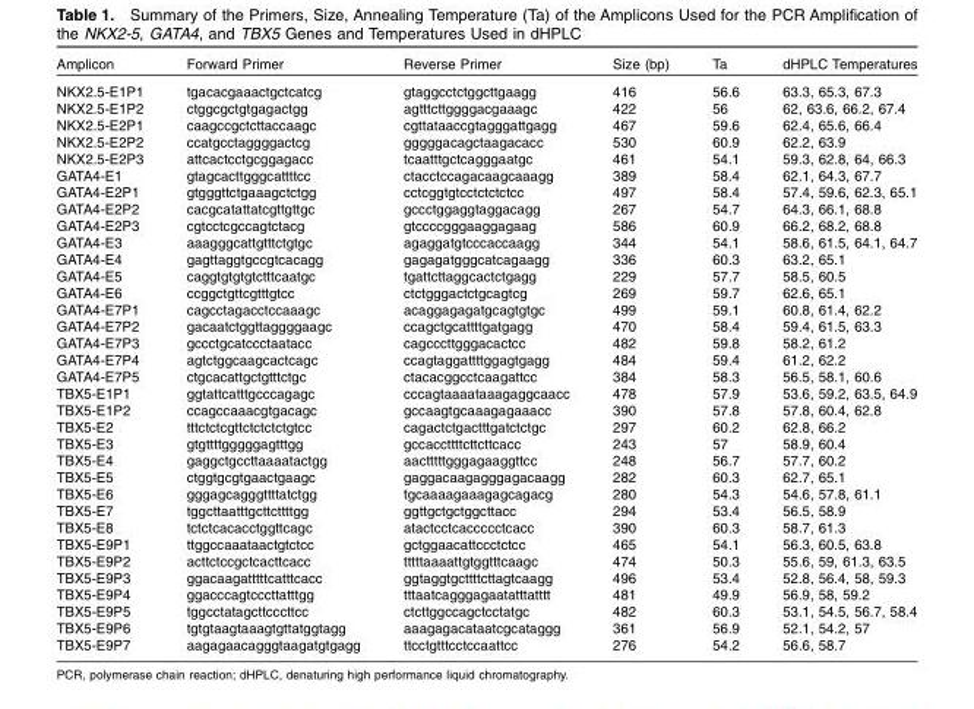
<table><thead><tr><td>Amplicon</td><td>Forward Primer</td><td>Reverse Primer</td><td>Size (bp)</td><td>Ta</td><td>dHPLC Temperatures</td></tr></thead><tbody><tr><td>NKX2.5-E1P1</td><td>tgacacgaaactgctcatcg</td><td>gtaggcctctggcttgaagg</td><td>416</td><td>56.6</td><td>63.3, 65.3, 67.3</td></tr><tr><td>NKX2.5-E1P2</td><td>ctggcgctgtgagactgg</td><td>agtttcttggggacgaaagc</td><td>422</td><td>56</td><td>62, 63.6, 66.2, 67.4</td></tr><tr><td>NKX2.5-E2P1</td><td>caagccgctcttaccaagc</td><td>cgttataaccgtagggattgagg</td><td>467</td><td>59.6</td><td>62.4, 65.6, 66.4</td></tr><tr><td>NKX2.5-E2P2</td><td>ccatgcctaggggactcg</td><td>gggggacagctaagacacc</td><td>530</td><td>60.9</td><td>62.2, 63.9</td></tr><tr><td>NKX2.5-E2P3</td><td>attcactcctgcggagacc</td><td>tcaatttgctcagggaatgc</td><td>461</td><td>54.1</td><td>59.3, 62.8, 64, 66.3</td></tr><tr><td>GATA4-E1</td><td>gtagcacttgggcattttcc</td><td>ctacctccagacaagcaaagg</td><td>389</td><td>58.4</td><td>62.1, 64.3, 67.7</td></tr><tr><td>GATA4-E2P1</td><td>gtgggttctgaaagctctgg</td><td>cctcggtgtcctctctctcc</td><td>497</td><td>58.4</td><td>57.4, 59.6, 62.3, 65.1</td></tr><tr><td>GATA4-E2P2</td><td>cacgcatattatcgttgttgc</td><td>gccctggaggtaggacagg</td><td>267</td><td>54.7</td><td>64.3, 66.1, 68.8</td></tr><tr><td>GATA4-E2P3</td><td>cgtcctcgccagtctacg</td><td>gtccccgggaaggagaag</td><td>586</td><td>60.9</td><td>66.2, 68.2, 68.8</td></tr><tr><td>GATA4-E3</td><td>aaagggcattgtttctgtgc</td><td>agaggatgtcccaccaagg</td><td>344</td><td>54.1</td><td>58.6, 61.5, 64.1, 64.7</td></tr><tr><td>GATA4-E4</td><td>gagttaggtgccgtcacagg</td><td>gagagatgggcatcagaagg</td><td>336</td><td>60.3</td><td>63.2, 65.1</td></tr><tr><td>GATA4-E5</td><td>caggtgtgtgtctttcaatgc</td><td>tgattcttaggcactctgagg</td><td>229</td><td>57.7</td><td>58.5, 60.5</td></tr><tr><td>GATA4-E6</td><td>ccggctgttcgtttgtcc</td><td>ctctgggactctgcagtcg</td><td>269</td><td>59.7</td><td>62.6, 65.1</td></tr><tr><td>GATA4-E7P1</td><td>cagcctagacctccaaagc</td><td>acaggagagatgcagtgtgc</td><td>499</td><td>59.1</td><td>60.8, 61.4, 62.2</td></tr><tr><td>GATA4-E7P2</td><td>gacaatctggttaggggaagc</td><td>ccagctgcattttgatgagg</td><td>470</td><td>58.4</td><td>59.4, 61.5, 63.3</td></tr><tr><td>GATA4-E7P3</td><td>gccctgcatccctaatacc</td><td>cagcccttgggacactcc</td><td>482</td><td>59.8</td><td>58.2, 61.2</td></tr><tr><td>GATA4-E7P4</td><td>agtctggcaagcactcagc</td><td>ccagtaggattttggagtgagg</td><td>484</td><td>59.4</td><td>61.2, 62.2</td></tr><tr><td>GATA4-E7P5</td><td>ctgcacattgctgtttctgc</td><td>ctacacggcctcaagattcc</td><td>384</td><td>58.3</td><td>56.5, 58.1, 60.6</td></tr><tr><td>TBX5-E1P1</td><td>ggtattcatttgcccagagc</td><td>cccagtaaaataaagaggcaacc</td><td>478</td><td>57.9</td><td>53.6, 59.2, 63.5, 64.9</td></tr><tr><td>TBX5-E1P2</td><td>ccagccaaacgtgacagc</td><td>gccaagtgcaaagagaaacc</td><td>390</td><td>57.8</td><td>57.8, 60.4, 62.8</td></tr><tr><td>TBX5-E2</td><td>tttctctcgttctctctctgtcc</td><td>cagactctgactttgatctctgc</td><td>297</td><td>60.2</td><td>62.8, 66.2</td></tr><tr><td>TBX5-E3</td><td>gtgttttgggggagtttgg</td><td>gccaccttttcttcttcacc</td><td>243</td><td>57</td><td>58.9, 60.4</td></tr><tr><td>TBX5-E4</td><td>gaggctgccttaaaatactgg</td><td>aactttttgggagaaggttcc</td><td>248</td><td>56.7</td><td>57.7, 60.2</td></tr><tr><td>TBX5-E5</td><td>ctggtgcgtgaactgaagc</td><td>gaggacaagagggagacaagg</td><td>282</td><td>60.3</td><td>62.7, 65.1</td></tr><tr><td>TBX5-E6</td><td>gggagcagggttttatctgg</td><td>tgcaaaagaaagagcagacg</td><td>280</td><td>54.3</td><td>54.6, 57.8, 61.1</td></tr><tr><td>TBX5-E7</td><td>tggcttaatttgcttcttttgg</td><td>ggttgctgctggcttacc</td><td>294</td><td>53.4</td><td>56.5, 58.9</td></tr><tr><td>TBX5-E8</td><td>tctctcacacctggttcagc</td><td>atactcctcaccccctcacc</td><td>390</td><td>60.3</td><td>58.7, 61.3</td></tr><tr><td>TBX5-E9P1</td><td>ttggccaaataactgtctcc</td><td>gctggaacattccctctcc</td><td>465</td><td>54.1</td><td>56.3, 60.5, 63.8</td></tr><tr><td>TBX5-E9P2</td><td>acttctccgctcacttcacc</td><td>tttttaaaattgtggtttcaagc</td><td>474</td><td>50.3</td><td>55.6, 59, 61.3, 63.5</td></tr><tr><td>TBX5-E9P3</td><td>ggacaagatttttcatttcacc</td><td>ggtaggtgcttttcttagtcaagg</td><td>496</td><td>53.4</td><td>52.8, 56.4, 58, 59.3</td></tr><tr><td>TBX5-E9P4</td><td>ggacccagtcccttatttgg</td><td>tttaatcagggagaatatttatttt</td><td>481</td><td>49.9</td><td>56.9, 58, 59.2</td></tr><tr><td>TBX5-E9P5</td><td>tggcctatagcttcccttcc</td><td>ctcttggccagctcctatgc</td><td>482</td><td>60.3</td><td>53.1, 54.5, 56.7, 58.4</td></tr><tr><td>TBX5-E9P6</td><td>tgtgtaagtaaagtgttatggtagg</td><td>aaagagacataatcgcataggg</td><td>361</td><td>56.9</td><td>52.1, 54.2, 57</td></tr><tr><td>TBX5-E9P7</td><td>aagagaacagggtaagatgtgagg</td><td>ttcctgtttcctccaattcc</td><td>276</td><td>54.2</td><td>56.6, 58.7</td></tr></tbody></table>